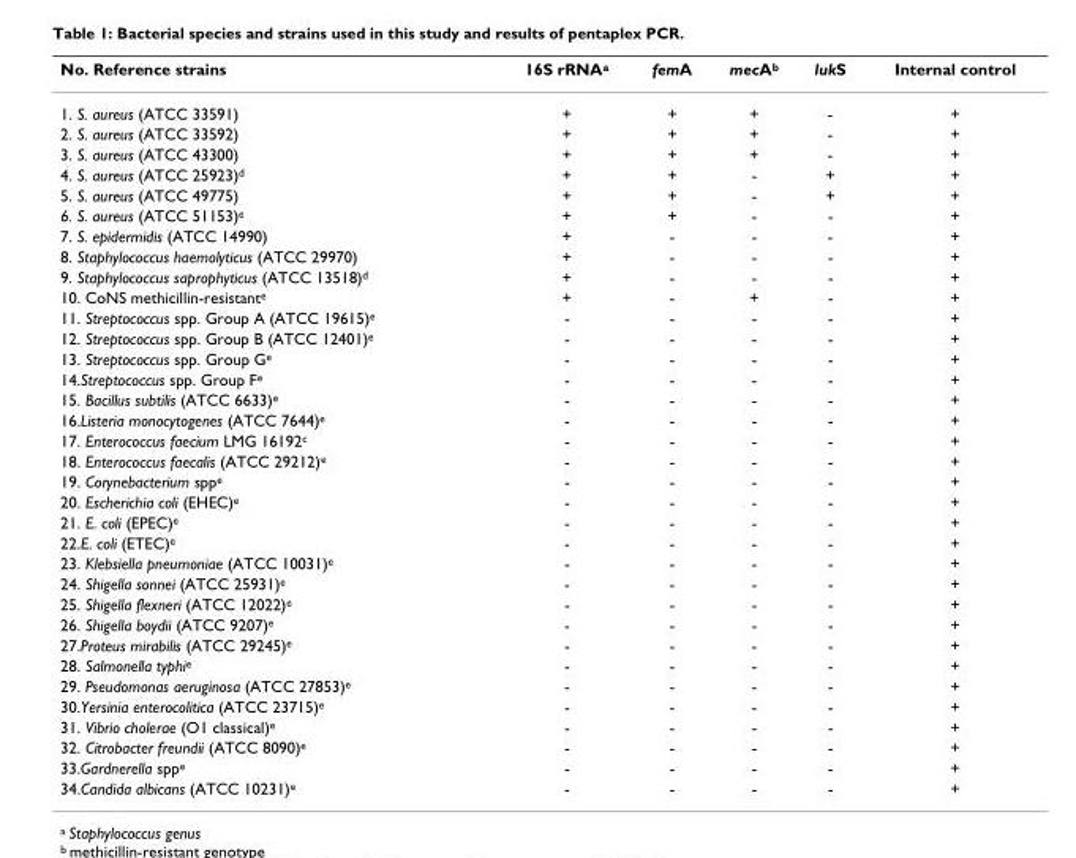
<table><thead><tr><td>No. Reference strains</td><td>16S rRNA<sup>a</sup></td><td>femA</td><td>mecA<sup>b</sup></td><td>lukS</td><td>Internal control</td></tr></thead><tbody><tr><td>1. S. aureus (ATCC 33591)</td><td>+</td><td>+</td><td>+</td><td>-</td><td>+</td></tr><tr><td>2. S. aureus (ATCC 33592)</td><td>+</td><td>+</td><td>+</td><td>-</td><td>+</td></tr><tr><td>3. S. aureus (ATCC 43300)</td><td>+</td><td>+</td><td>+</td><td>-</td><td>+</td></tr><tr><td>4. S. aureus (ATCC 25923)<sup>d</sup></td><td>+</td><td>+</td><td>-</td><td>+</td><td>+</td></tr><tr><td>5. S. aureus (ATCC 49775)</td><td>+</td><td>+</td><td>-</td><td>+</td><td>+</td></tr><tr><td>6. S. aureus (ATCC 51153)<sup>e</sup></td><td>+</td><td>+</td><td>-</td><td>-</td><td>+</td></tr><tr><td>7. S. epidermidis (ATCC 14990)</td><td>+</td><td>-</td><td>-</td><td>-</td><td>+</td></tr><tr><td>8. Staphylococcus haemolyticus (ATCC 29970)</td><td>+</td><td>-</td><td>-</td><td>-</td><td>+</td></tr><tr><td>9. Staphylococcus saprophyticus (ATCC 13518)<sup>d</sup></td><td>+</td><td>-</td><td>-</td><td>-</td><td>+</td></tr><tr><td>10. CoNS methicillin-resistant<sup>e</sup></td><td>+</td><td>-</td><td>+</td><td>-</td><td>+</td></tr><tr><td>11. Streptococcus spp. Group A (ATCC 19615)<sup>e</sup></td><td>-</td><td>-</td><td>-</td><td>-</td><td>+</td></tr><tr><td>12. Streptococcus spp. Group B (ATCC 12401)<sup>e</sup></td><td>-</td><td>-</td><td>-</td><td>-</td><td>+</td></tr><tr><td>13. Streptococcus spp. Group G<sup>e</sup></td><td>-</td><td>-</td><td>-</td><td>-</td><td>+</td></tr><tr><td>14.Streptococcus spp. Group F<sup>e</sup></td><td>-</td><td>-</td><td>-</td><td>-</td><td>+</td></tr><tr><td>15. Bacillus subtilis (ATCC 6633)<sup>e</sup></td><td>-</td><td>-</td><td>-</td><td>-</td><td>+</td></tr><tr><td>16.Listeria monocytogenes (ATCC 7644)<sup>e</sup></td><td>-</td><td>-</td><td>-</td><td>-</td><td>+</td></tr><tr><td>17. Enterococcus faecium LMG 16192<sup>c</sup></td><td>-</td><td>-</td><td>-</td><td>-</td><td>+</td></tr><tr><td>18. Enterococcus faecalis (ATCC 29212)<sup>e</sup></td><td>-</td><td>-</td><td>-</td><td>-</td><td>+</td></tr><tr><td>19. Corynebacterium spp<sup>e</sup></td><td>-</td><td>-</td><td>-</td><td>-</td><td>+</td></tr><tr><td>20. Escherichia coli (EHEC)<sup>e</sup></td><td>-</td><td>-</td><td>-</td><td>-</td><td>+</td></tr><tr><td>21. E. coli (EPEC)<sup>e</sup></td><td>-</td><td>-</td><td>-</td><td>-</td><td>+</td></tr><tr><td>22.E. coli (ETEC)<sup>e</sup></td><td>-</td><td>-</td><td>-</td><td>-</td><td>+</td></tr><tr><td>23. Klebsiella pneumoniae (ATCC 10031)<sup>e</sup></td><td>-</td><td>-</td><td>-</td><td>-</td><td>+</td></tr><tr><td>24. Shigella sonnei (ATCC 25931)<sup>e</sup></td><td>-</td><td>-</td><td>-</td><td>-</td><td>+</td></tr><tr><td>25. Shigella flexneri (ATCC 12022)<sup>e</sup></td><td>-</td><td>-</td><td>-</td><td>-</td><td>+</td></tr><tr><td>26. Shigella boydii (ATCC 9207)<sup>e</sup></td><td>-</td><td>-</td><td>-</td><td>-</td><td>+</td></tr><tr><td>27.Proteus mirabilis (ATCC 29245)<sup>e</sup></td><td>-</td><td>-</td><td>-</td><td>-</td><td>+</td></tr><tr><td>28. Salmonella typhi<sup>e</sup></td><td>-</td><td>-</td><td>-</td><td>-</td><td>+</td></tr><tr><td>29. Pseudomonas aeruginosa (ATCC 27853)<sup>e</sup></td><td>-</td><td>-</td><td>-</td><td>-</td><td>+</td></tr><tr><td>30.Yersinia enterocolitica (ATCC 23715)<sup>e</sup></td><td>-</td><td>-</td><td>-</td><td>-</td><td>+</td></tr><tr><td>31. Vibrio cholerae (O1 classical)<sup>e</sup></td><td>-</td><td>-</td><td>-</td><td>-</td><td>+</td></tr><tr><td>32. Citrobacter freundii (ATCC 8090)<sup>e</sup></td><td>-</td><td>-</td><td>-</td><td>-</td><td>+</td></tr><tr><td>33.Gardnerella spp<sup>e</sup></td><td>-</td><td>-</td><td>-</td><td>-</td><td>+</td></tr><tr><td>34.Candida albicans (ATCC 10231)<sup>e</sup></td><td>-</td><td>-</td><td>-</td><td>-</td><td>+</td></tr></tbody></table>